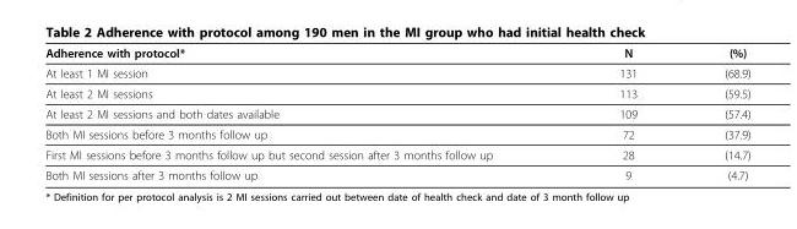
<table><thead><tr><td>Adherence with protocol*</td><td>N</td><td>(%)</td></tr></thead><tbody><tr><td>At least 1 MI session</td><td>131</td><td>(68.9)</td></tr><tr><td>At least 2 MI sessions</td><td>113</td><td>(59.5)</td></tr><tr><td>At least 2 MI sessions and both dates available</td><td>109</td><td>(57.4)</td></tr><tr><td>Both MI sessions before 3 months follow up</td><td>72</td><td>(37.9)</td></tr><tr><td>First MI sessions before 3 months follow up but second session after 3 months follow up</td><td>28</td><td>(14.7)</td></tr><tr><td>Both MI sessions after 3 months follow up</td><td>9</td><td>(4.7)</td></tr></tbody></table>